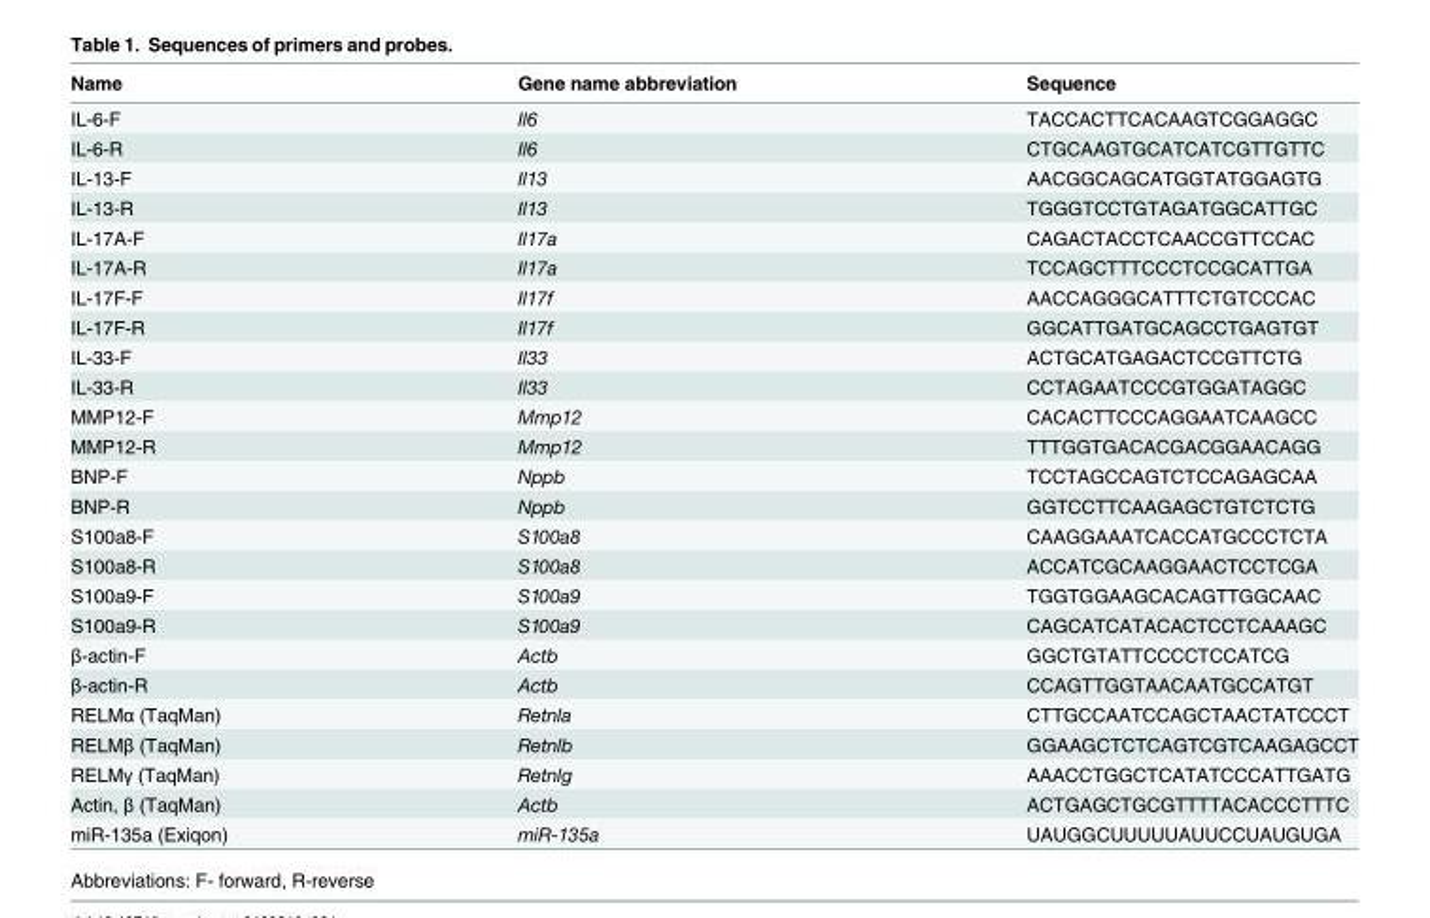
<table><thead><tr><td>Name</td><td>Gene name abbreviation</td><td>Sequence</td></tr></thead><tbody><tr><td>IL-6-F</td><td>Il6</td><td>TACCACTTCACAAGTCGGAGGC</td></tr><tr><td>IL-6-R</td><td>Il6</td><td>CTGCAAGTGCATCATCGTTGTTC</td></tr><tr><td>IL-13-F</td><td>Il13</td><td>AACGGCAGCATGGTATGGAGTG</td></tr><tr><td>IL-13-R</td><td>Il13</td><td>TGGGTCCTGTAGATGGCATTGC</td></tr><tr><td>IL-17A-F</td><td>Il17a</td><td>CAGACTACCTCAACCGTTCCAC</td></tr><tr><td>IL-17A-R</td><td>Il17a</td><td>TCCAGCTTTCCCTCCGCATTGA</td></tr><tr><td>IL-17F-F</td><td>Il17f</td><td>AACCAGGGCATTTCTGTCCCAC</td></tr><tr><td>IL-17F-R</td><td>Il17f</td><td>GGCATTGATGCAGCCTGAGTGT</td></tr><tr><td>IL-33-F</td><td>Il33</td><td>ACTGCATGAGACTCCGTTCTG</td></tr><tr><td>IL-33-R</td><td>Il33</td><td>CCTAGAATCCCGTGGATAGGC</td></tr><tr><td>MMP12-F</td><td>Mmp12</td><td>CACACTTCCCAGGAATCAAGCC</td></tr><tr><td>MMP12-R</td><td>Mmp12</td><td>TTTGGTGACACGACGGAACAGG</td></tr><tr><td>BNP-F</td><td>Nppb</td><td>TCCTAGCCAGTCTCCAGAGCAA</td></tr><tr><td>BNP-R</td><td>Nppb</td><td>GGTCCTTCAAGAGCTGTCTCTG</td></tr><tr><td>S100a8-F</td><td>S100a8</td><td>CAAGGAAATCACCATGCCCTCTA</td></tr><tr><td>S100a8-R</td><td>S100a8</td><td>ACCATCGCAAGGAACTCCTCGA</td></tr><tr><td>S100a9-F</td><td>S100a9</td><td>TGGTGGAAGCACAGTTGGCAAC</td></tr><tr><td>S100a9-R</td><td>S100a9</td><td>CAGCATCATACACTCCTCAAAGC</td></tr><tr><td>β-actin-F</td><td>Actb</td><td>GGCTGTATTCCCCTCCATCG</td></tr><tr><td>β-actin-R</td><td>Actb</td><td>CCAGTTGGTAACAATGCCATGT</td></tr><tr><td>RELMα (TaqMan)</td><td>Retnla</td><td>CTTGCCAATCCAGCTAACTATCCCT</td></tr><tr><td>RELMβ (TaqMan)</td><td>Retnlb</td><td>GGAAGCTCTCAGTCGTCAAGAGCCT</td></tr><tr><td>RELMγ (TaqMan)</td><td>Retnlg</td><td>AAACCTGGCTCATATCCCATTGATG</td></tr><tr><td>Actin, β (TaqMan)</td><td>Actb</td><td>ACTGAGCTGCGTTTTACACCCTTTC</td></tr><tr><td>miR-135a (Exiqon)</td><td>miR-135a</td><td>UAUGGCUUUUUAUUCCUAUGUGA</td></tr></tbody></table>